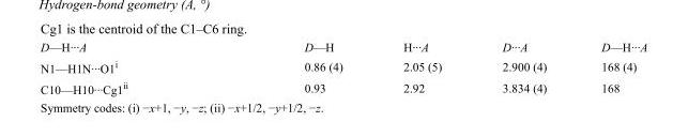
<table><tbody><tr><td>D—H···A</td><td>D—H</td><td>H···A</td><td>D···A</td><td>D—H···A</td></tr><tr><td>N1—H1N···O1<sup>i</sup></td><td>0.86 (4)</td><td>2.05 (5)</td><td>2.900 (4)</td><td>168 (4)</td></tr><tr><td>C10—H10···Cg1<sup>ii</sup></td><td>0.93</td><td>2.92</td><td>3.834 (4)</td><td>168</td></tr></tbody></table>